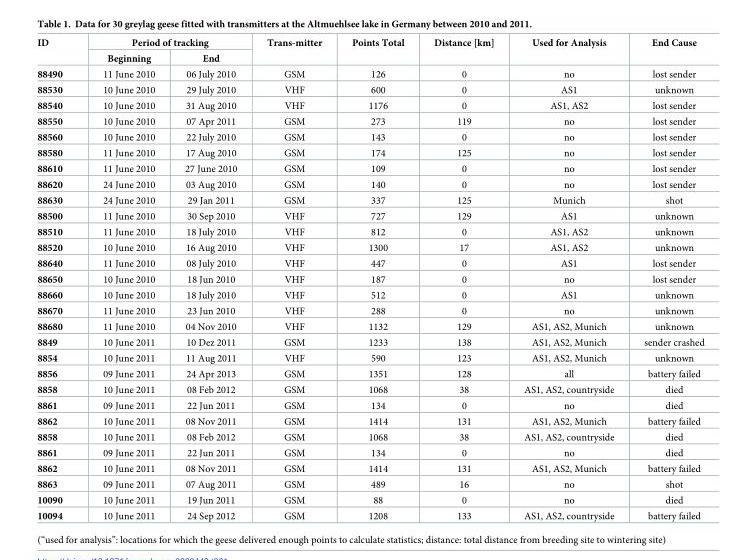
<table><thead><tr><td rowspan="2">ID</td><td colspan="2">Period of tracking</td><td rowspan="2">Trans-mitter</td><td rowspan="2">Points Total</td><td rowspan="2">Distance [km]</td><td rowspan="2">Used for Analysis</td><td rowspan="2">End Cause</td></tr><tr><td>Beginning</td><td>End</td></tr></thead><tbody><tr><td>88490</td><td>11 June 2010</td><td>06 July 2010</td><td>GSM</td><td>126</td><td>0</td><td>no</td><td>lost sender</td></tr><tr><td>88530</td><td>10 June 2010</td><td>29 July 2010</td><td>VHF</td><td>600</td><td>0</td><td>AS1</td><td>unknown</td></tr><tr><td>88540</td><td>10 June 2010</td><td>31 Aug 2010</td><td>VHF</td><td>1176</td><td>0</td><td>AS1, AS2</td><td>lost sender</td></tr><tr><td>88550</td><td>10 June 2010</td><td>07 Apr 2011</td><td>GSM</td><td>273</td><td>119</td><td>no</td><td>lost sender</td></tr><tr><td>88560</td><td>10 June 2010</td><td>22 July 2010</td><td>GSM</td><td>143</td><td>0</td><td>no</td><td>lost sender</td></tr><tr><td>88580</td><td>11 June 2010</td><td>17 Aug 2010</td><td>GSM</td><td>174</td><td>125</td><td>no</td><td>lost sender</td></tr><tr><td>88610</td><td>11 June 2010</td><td>27 June 2010</td><td>GSM</td><td>109</td><td>0</td><td>no</td><td>lost sender</td></tr><tr><td>88620</td><td>24 June 2010</td><td>03 Aug 2010</td><td>GSM</td><td>140</td><td>0</td><td>no</td><td>lost sender</td></tr><tr><td>88630</td><td>24 June 2010</td><td>29 Jan 2011</td><td>GSM</td><td>337</td><td>125</td><td>Munich</td><td>shot</td></tr><tr><td>88500</td><td>11 June 2010</td><td>30 Sep 2010</td><td>VHF</td><td>727</td><td>129</td><td>AS1</td><td>unknown</td></tr><tr><td>88510</td><td>11 June 2010</td><td>18 July 2010</td><td>VHF</td><td>812</td><td>0</td><td>AS1, AS2</td><td>unknown</td></tr><tr><td>88520</td><td>10 June 2010</td><td>16 Aug 2010</td><td>VHF</td><td>1300</td><td>17</td><td>AS1, AS2</td><td>unknown</td></tr><tr><td>88640</td><td>11 June 2010</td><td>08 July 2010</td><td>VHF</td><td>447</td><td>0</td><td>AS1</td><td>lost sender</td></tr><tr><td>88650</td><td>10 June 2010</td><td>18 Jun 2010</td><td>VHF</td><td>187</td><td>0</td><td>no</td><td>lost sender</td></tr><tr><td>88660</td><td>10 June 2010</td><td>18 July 2010</td><td>VHF</td><td>512</td><td>0</td><td>AS1</td><td>unknown</td></tr><tr><td>88670</td><td>11 June 2010</td><td>23 Jun 2010</td><td>VHF</td><td>288</td><td>0</td><td>no</td><td>unknown</td></tr><tr><td>88680</td><td>11 June 2010</td><td>04 Nov 2010</td><td>VHF</td><td>1132</td><td>129</td><td>AS1, AS2, Munich</td><td>unknown</td></tr><tr><td>8849</td><td>10 June 2011</td><td>10 Dez 2011</td><td>GSM</td><td>1233</td><td>138</td><td>AS1, AS2, Munich</td><td>sender crashed</td></tr><tr><td>8854</td><td>10 June 2011</td><td>11 Aug 2011</td><td>VHF</td><td>590</td><td>123</td><td>AS1, AS2, Munich</td><td>unknown</td></tr><tr><td>8856</td><td>09 June 2011</td><td>24 Apr 2013</td><td>GSM</td><td>1351</td><td>128</td><td>all</td><td>battery failed</td></tr><tr><td>8858</td><td>10 June 2011</td><td>08 Feb 2012</td><td>GSM</td><td>1068</td><td>38</td><td>AS1, AS2, countryside</td><td>died</td></tr><tr><td>8861</td><td>09 June 2011</td><td>22 Jun 2011</td><td>GSM</td><td>134</td><td>0</td><td>no</td><td>died</td></tr><tr><td>8862</td><td>10 June 2011</td><td>08 Nov 2011</td><td>GSM</td><td>1414</td><td>131</td><td>AS1, AS2, Munich</td><td>battery failed</td></tr><tr><td>8858</td><td>10 June 2011</td><td>08 Feb 2012</td><td>GSM</td><td>1068</td><td>38</td><td>AS1, AS2, countryside</td><td>died</td></tr><tr><td>8861</td><td>09 June 2011</td><td>22 Jun 2011</td><td>GSM</td><td>134</td><td>0</td><td>no</td><td>died</td></tr><tr><td>8862</td><td>10 June 2011</td><td>08 Nov 2011</td><td>GSM</td><td>1414</td><td>131</td><td>AS1, AS2, Munich</td><td>battery failed</td></tr><tr><td>8863</td><td>09 June 2011</td><td>07 Aug 2011</td><td>GSM</td><td>489</td><td>16</td><td>no</td><td>shot</td></tr><tr><td>10090</td><td>10 June 2011</td><td>19 Jun 2011</td><td>GSM</td><td>88</td><td>0</td><td>no</td><td>died</td></tr><tr><td>10094</td><td>10 June 2011</td><td>24 Sep 2012</td><td>GSM</td><td>1208</td><td>133</td><td>AS1, AS2, countryside</td><td>battery failed</td></tr></tbody></table>